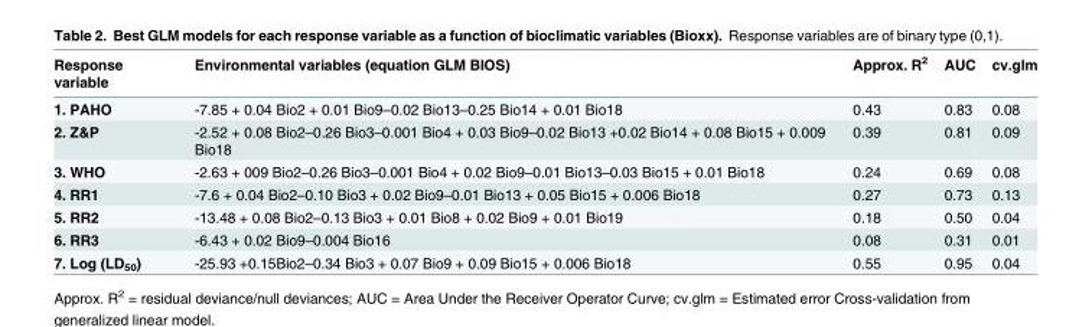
<table><thead><tr><td>Response variable</td><td>Environmental variables (equation GLM BIOS)</td><td>Approx. R<sup>2</sup></td><td>AUC</td><td>cv.glm</td></tr></thead><tbody><tr><td>1. PAHO</td><td>-7.85 + 0.04 Bio2 + 0.01 Bio9–0.02 Bio13–0.25 Bio14 + 0.01 Bio18</td><td>0.43</td><td>0.83</td><td>0.08</td></tr><tr><td>2. Z&amp;P</td><td>-2.52 + 0.08 Bio2–0.26 Bio3–0.001 Bio4 + 0.03 Bio9–0.02 Bio13 +0.02 Bio14 + 0.08 Bio15 + 0.009 Bio18</td><td>0.39</td><td>0.81</td><td>0.09</td></tr><tr><td>3. WHO</td><td>-2.63 + 009 Bio2–0.26 Bio3–0.001 Bio4 + 0.02 Bio9–0.01 Bio13–0.03 Bio15 + 0.01 Bio18</td><td>0.24</td><td>0.69</td><td>0.08</td></tr><tr><td>4. RR1</td><td>-7.6 + 0.04 Bio2–0.10 Bio3 + 0.02 Bio9–0.01 Bio13 + 0.05 Bio15 + 0.006 Bio18</td><td>0.27</td><td>0.73</td><td>0.13</td></tr><tr><td>5. RR2</td><td>-13.48 + 0.08 Bio2–0.13 Bio3 + 0.01 Bio8 + 0.02 Bio9 + 0.01 Bio19</td><td>0.18</td><td>0.50</td><td>0.04</td></tr><tr><td>6. RR3</td><td>-6.43 + 0.02 Bio9–0.004 Bio16</td><td>0.08</td><td>0.31</td><td>0.01</td></tr><tr><td>7. Log (LD<sub>50</sub>)</td><td>-25.93 +0.15Bio2–0.34 Bio3 + 0.07 Bio9 + 0.09 Bio15 + 0.006 Bio18</td><td>0.55</td><td>0.95</td><td>0.04</td></tr></tbody></table>